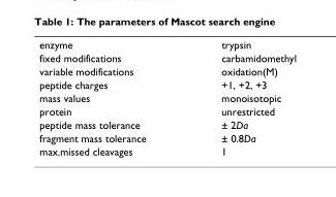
<table><tbody><tr><td>enzyme</td><td>trypsin</td></tr><tr><td>fixed modifications</td><td>carbamidomethyl</td></tr><tr><td>variable modifications</td><td>oxidation(M)</td></tr><tr><td>peptide charges</td><td>+1, +2, +3</td></tr><tr><td>mass values</td><td>monoisotopic</td></tr><tr><td>protein</td><td>unrestricted</td></tr><tr><td>peptide mass tolerance</td><td>± 2Da</td></tr><tr><td>fragment mass tolerance</td><td>± 0.8Da</td></tr><tr><td>max.missed cleavages</td><td>1</td></tr></tbody></table>